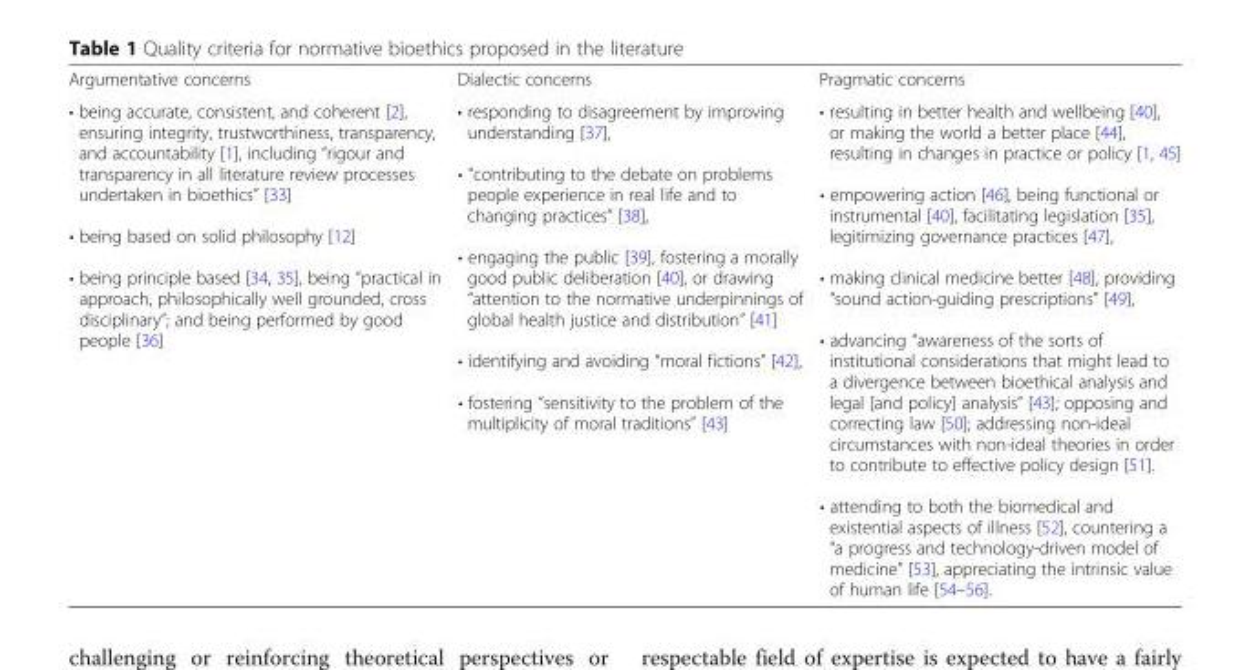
<table><tbody><tr><td>Argumentative concerns</td><td>Dialectic concerns</td><td>Pragmatic concerns</td></tr><tr><td>• being accurate, consistent, and coherent [2], ensuring integrity, trustworthiness, transparency, and accountability [1], including “rigour and transparency in all literature review processes undertaken in bioethics” [33] • being based on solid philosophy [12] • being principle based [34, 35], being “practical in approach, philosophically well grounded, cross disciplinary”; and being performed by good people [36]</td><td>• responding to disagreement by improving understanding [37], • “contributing to the debate on problems people experience in real life and to changing practices” [38], • engaging the public [39], fostering a morally good public deliberation [40], or drawing “attention to the normative underpinnings of global health justice and distribution” [41] • identifying and avoiding “moral fictions” [42], • fostering “sensitivity to the problem of the multiplicity of moral traditions” [43]</td><td>• resulting in better health and wellbeing [40], or making the world a better place [44], resulting in changes in practice or policy [1, 45] • empowering action [46], being functional or instrumental [40], facilitating legislation [35], legitimizing governance practices [47], • making clinical medicine better [48], providing “sound action-guiding prescriptions” [49], • advancing “awareness of the sorts of institutional considerations that might lead to a divergence between bioethical analysis and legal [and policy] analysis” [43]; opposing and correcting law [50]; addressing non-ideal circumstances with non-ideal theories in order to contribute to effective policy design [51]. • attending to both the biomedical and existential aspects of illness [52], countering a “a progress and technology-driven model of medicine” [53], appreciating the intrinsic value of human life [54–56].</td></tr></tbody></table>